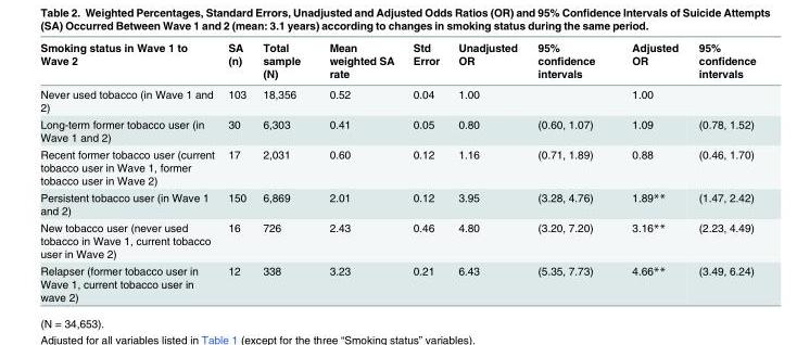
<table><thead><tr><td>Smoking status in Wave 1 to Wave 2</td><td>SA (n)</td><td>Total sample (N)</td><td>Mean weighted SA rate</td><td>Std Error</td><td>Unadjusted OR</td><td>95% confidence intervals</td><td>Adjusted OR</td><td>95% confidence intervals</td></tr></thead><tbody><tr><td>Never used tobacco (in Wave 1 and 2)</td><td>103</td><td>18,356</td><td>0.52</td><td>0.04</td><td>1.00</td><td></td><td>1.00</td><td></td></tr><tr><td>Long-term former tobacco user (in Wave 1 and 2)</td><td>30</td><td>6,303</td><td>0.41</td><td>0.05</td><td>0.80</td><td>(0.60, 1.07)</td><td>1.09</td><td>(0.78, 1.52)</td></tr><tr><td>Recent former tobacco user (current tobacco user in Wave 1, former tobacco user in Wave 2)</td><td>17</td><td>2,031</td><td>0.60</td><td>0.12</td><td>1.16</td><td>(0.71, 1.89)</td><td>0.88</td><td>(0.46, 1.70)</td></tr><tr><td>Persistent tobacco user (in Wave 1 and 2)</td><td>150</td><td>6,869</td><td>2.01</td><td>0.12</td><td>3.95</td><td>(3.28, 4.76)</td><td>1.89**</td><td>(1.47, 2.42)</td></tr><tr><td>New tobacco user (never used tobacco in Wave 1, current tobacco user in Wave 2)</td><td>16</td><td>726</td><td>2.43</td><td>0.46</td><td>4.80</td><td>(3.20, 7.20)</td><td>3.16**</td><td>(2.23, 4.49)</td></tr><tr><td>Relapser (former tobacco user in Wave 1, current tobacco user in wave 2)</td><td>12</td><td>338</td><td>3.23</td><td>0.21</td><td>6.43</td><td>(5.35, 7.73)</td><td>4.66**</td><td>(3.49, 6.24)</td></tr></tbody></table>